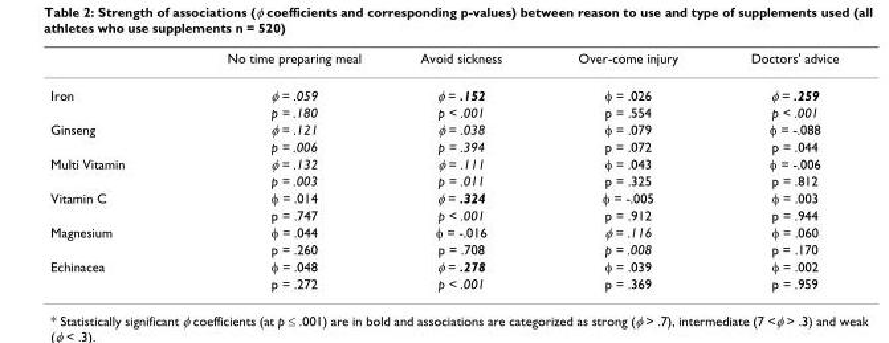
<table><thead><tr><td></td><td>No time preparing meal</td><td>Avoid sickness</td><td>Over-come injury</td><td>Doctors&#x27; advice</td></tr></thead><tbody><tr><td rowspan="2">Iron</td><td>φ = .059</td><td>φ = .152</td><td>φ = .026</td><td>φ = .259</td></tr><tr><td>p = .180</td><td>p &lt; .001</td><td>p = .554</td><td>p &lt; .001</td></tr><tr><td rowspan="2">Ginseng</td><td>φ = .121</td><td>φ = .038</td><td>φ = .079</td><td>φ = -.088</td></tr><tr><td>p = .006</td><td>p = .394</td><td>p = .072</td><td>p = .044</td></tr><tr><td rowspan="2">Multi Vitamin</td><td>φ = .132</td><td>φ = .111</td><td>φ = .043</td><td>φ = -.006</td></tr><tr><td>p = .003</td><td>p = .011</td><td>p = .325</td><td>p = .812</td></tr><tr><td rowspan="2">Vitamin C</td><td>φ = .014</td><td>φ = .324</td><td>φ = -.005</td><td>φ = .003</td></tr><tr><td>p = .747</td><td>p &lt; .001</td><td>p = .912</td><td>p = .944</td></tr><tr><td rowspan="2">Magnesium</td><td>φ = .044</td><td>φ = -.016</td><td>φ = .116</td><td>φ = .060</td></tr><tr><td>p = .260</td><td>p = .708</td><td>p = .008</td><td>p = .170</td></tr><tr><td rowspan="2">Echinacea</td><td>φ = .048</td><td>φ = .278</td><td>φ = .039</td><td>φ = .002</td></tr><tr><td>p = .272</td><td>p &lt; .001</td><td>p = .369</td><td>p = .959</td></tr></tbody></table>